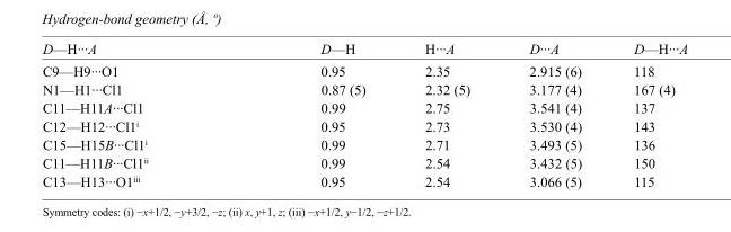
<table><tbody><tr><td>D—H···A</td><td>D—H</td><td>H···A</td><td>D···A</td><td>D—H···A</td></tr><tr><td>C9—H9···O1</td><td>0.95</td><td>2.35</td><td>2.915 (6)</td><td>118</td></tr><tr><td>N1—H1···Cl1</td><td>0.87 (5)</td><td>2.32 (5)</td><td>3.177 (4)</td><td>167 (4)</td></tr><tr><td>C11—H11A···Cl1</td><td>0.99</td><td>2.75</td><td>3.541 (4)</td><td>137</td></tr><tr><td>C12—H12···Cl1<sup>i</sup></td><td>0.95</td><td>2.73</td><td>3.530 (4)</td><td>143</td></tr><tr><td>C15—H15B···Cl1<sup>i</sup></td><td>0.99</td><td>2.71</td><td>3.493 (5)</td><td>136</td></tr><tr><td>C11—H11B···Cl1<sup>ii</sup></td><td>0.99</td><td>2.54</td><td>3.432 (5)</td><td>150</td></tr><tr><td>C13—H13···O1<sup>iii</sup></td><td>0.95</td><td>2.54</td><td>3.066 (5)</td><td>115</td></tr></tbody></table>